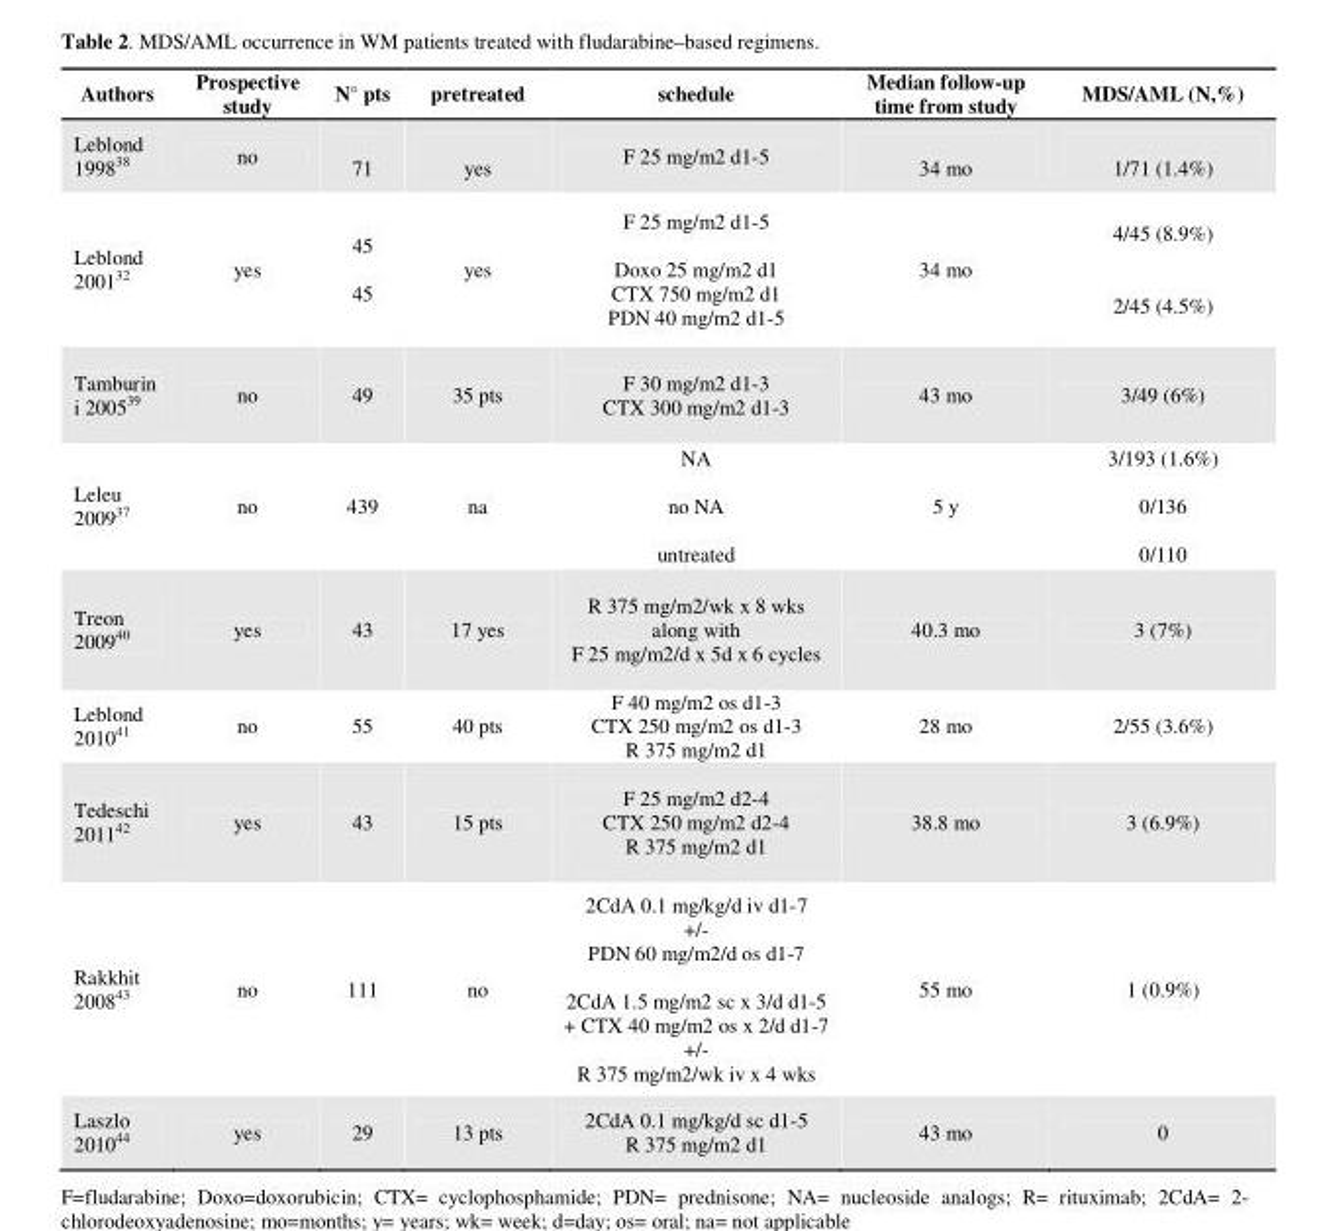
<table><thead><tr><td>Authors</td><td>Prospective study</td><td>N° pts</td><td>pretreated</td><td>schedule</td><td>Median follow-up time from study</td><td>MDS/AML (N,%)</td></tr></thead><tbody><tr><td>Leblond 1998<sup>38</sup></td><td>no</td><td>71</td><td>yes</td><td>F 25 mg/m2 d1-5</td><td>34 mo</td><td>1/71 (1.4%)</td></tr><tr><td>Leblond 2001<sup>32</sup></td><td>yes</td><td>45 45</td><td>yes</td><td>F 25 mg/m2 d1-5 Doxo 25 mg/m2 d1 CTX 750 mg/m2 d1 PDN 40 mg/m2 d1-5</td><td>34 mo</td><td>4/45 (8.9%) 2/45 (4.5%)</td></tr><tr><td>Tamburin i 2005<sup>39</sup></td><td>no</td><td>49</td><td>35 pts</td><td>F 30 mg/m2 d1-3 CTX 300 mg/m2 d1-3</td><td>43 mo</td><td>3/49 (6%)</td></tr><tr><td>Leleu 2009<sup>37</sup></td><td>no</td><td>439</td><td>na</td><td>NA no NA untreated</td><td>5 y</td><td>3/193 (1.6%) 0/136 0/110</td></tr><tr><td>Treon 2009<sup>40</sup></td><td>yes</td><td>43</td><td>17 yes</td><td>R 375 mg/m2/wk x 8 wks along with F 25 mg/m2/d x 5d x 6 cycles</td><td>40.3 mo</td><td>3 (7%)</td></tr><tr><td>Leblond 2010<sup>41</sup></td><td>no</td><td>55</td><td>40 pts</td><td>F 40 mg/m2 os d1-3 CTX 250 mg/m2 os d1-3 R 375 mg/m2 d1</td><td>28 mo</td><td>2/55 (3.6%)</td></tr><tr><td>Tedeschi 2011<sup>42</sup></td><td>yes</td><td>43</td><td>15 pts</td><td>F 25 mg/m2 d2-4 CTX 250 mg/m2 d2-4 R 375 mg/m2 d1</td><td>38.8 mo</td><td>3 (6.9%)</td></tr><tr><td>Rakkhit 2008<sup>43</sup></td><td>no</td><td>111</td><td>no</td><td>2CdA 0.1 mg/kg/d iv d1-7 +/- PDN 60 mg/m2/d os d1-7 2CdA 1.5 mg/m2 sc x 3/d d1-5 + CTX 40 mg/m2 os x 2/d d1-7 +/- R 375 mg/m2/wk iv x 4 wks</td><td>55 mo</td><td>1 (0.9%)</td></tr><tr><td>Laszlo 2010<sup>44</sup></td><td>yes</td><td>29</td><td>13 pts</td><td>2CdA 0.1 mg/kg/d sc d1-5 R 375 mg/m2 d1</td><td>43 mo</td><td>0</td></tr></tbody></table>